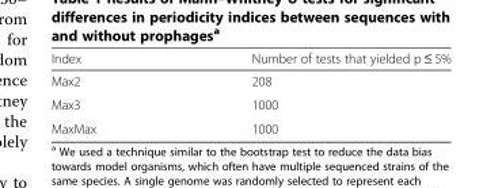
<table><thead><tr><td>Index</td><td>Number of tests that yielded p ≤ 5%</td></tr></thead><tbody><tr><td>Max2</td><td>208</td></tr><tr><td>Max3</td><td>1000</td></tr><tr><td>MaxMax</td><td>1000</td></tr></tbody></table>